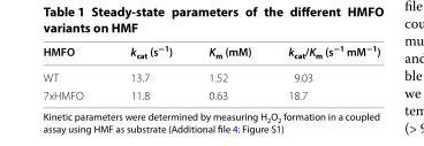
<table><thead><tr><td>HMFO</td><td>k<sub>cat</sub> (s<sup>−1</sup>)</td><td>K<sub>m</sub> (mM)</td><td>k<sub>cat</sub>/K<sub>m</sub> (s<sup>−1</sup> mM<sup>−1</sup>)</td></tr></thead><tbody><tr><td>WT</td><td>13.7</td><td>1.52</td><td>9.03</td></tr><tr><td>7xHMFO</td><td>11.8</td><td>0.63</td><td>18.7</td></tr></tbody></table>